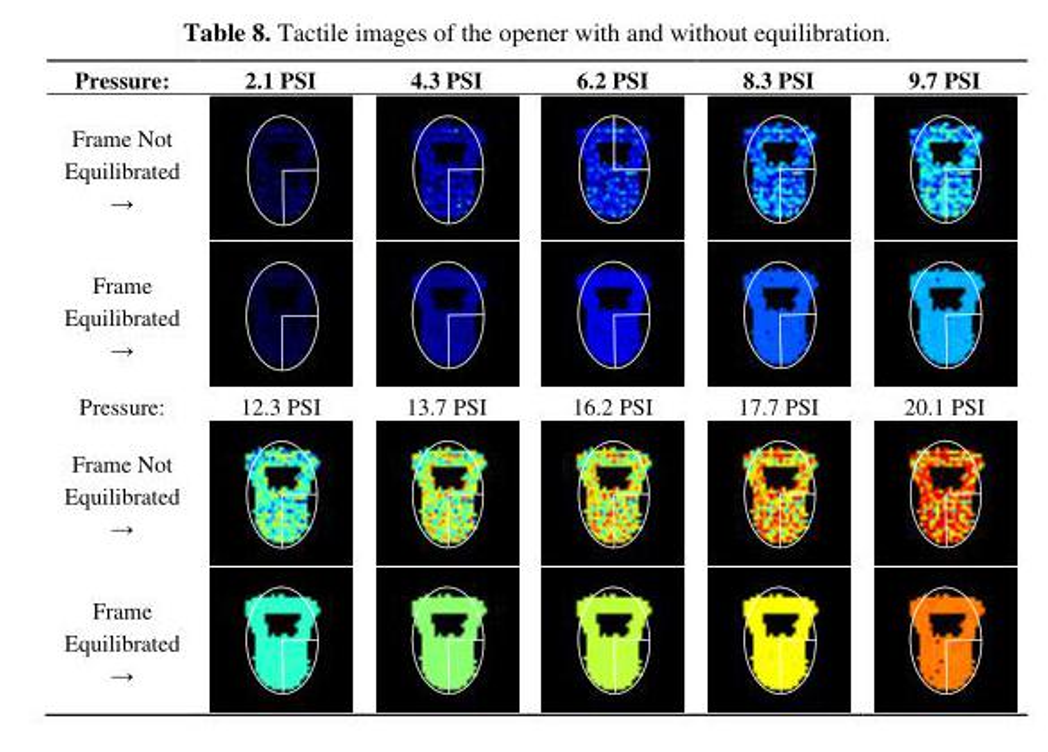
<table><thead><tr><td>Pressure:</td><td>2.1 PSI</td><td>4.3 PSI</td><td>6.2 PSI</td><td>8.3 PSI</td><td>9.7 PSI</td></tr></thead><tbody><tr><td colspan="6">Frame Not Equilibrated →</td></tr><tr><td colspan="6">Frame Equilibrated →</td></tr><tr><td>Pressure:</td><td>12.3 PSI</td><td>13.7 PSI</td><td>16.2 PSI</td><td>17.7 PSI</td><td>20.1 PSI</td></tr><tr><td colspan="6">Frame Not Equilibrated →</td></tr><tr><td>Frame Equilibrated →</td><td></td><td></td><td></td><td></td><td></td></tr></tbody></table>